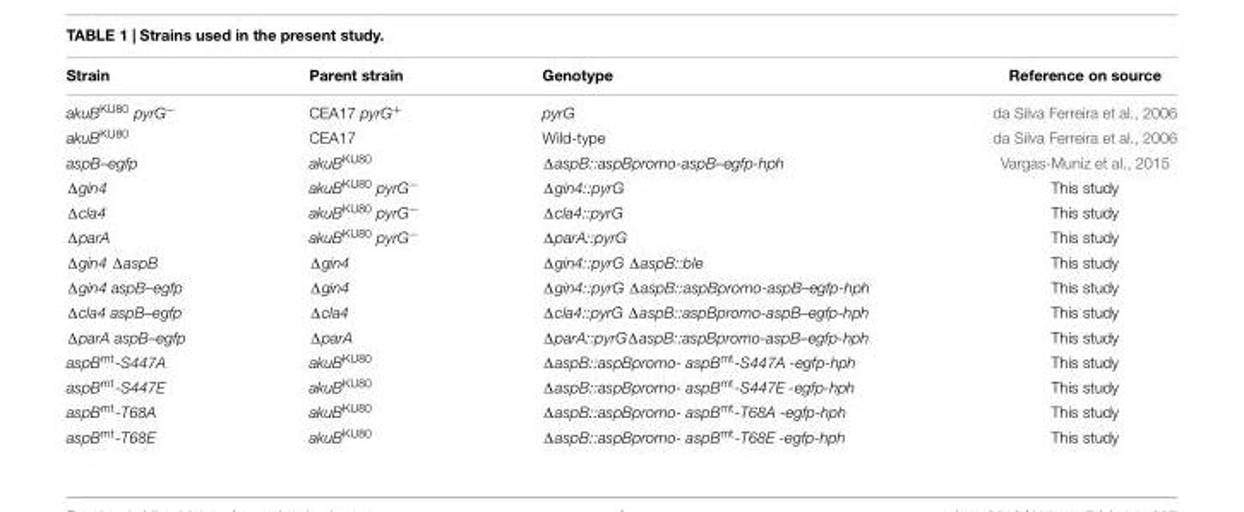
<table><thead><tr><td>Strain</td><td>Parent strain</td><td>Genotype</td><td>Reference on source</td></tr></thead><tbody><tr><td>akuB<sup>KU80</sup> pyrG<sup>−</sup></td><td>CEA17 pyrG<sup>+</sup></td><td>pyrG</td><td>da Silva Ferreira et al., 2006</td></tr><tr><td>akuB<sup>KU80</sup></td><td>CEA17</td><td>Wild-type</td><td>da Silva Ferreira et al., 2006</td></tr><tr><td>aspB–egfp</td><td>akuB<sup>KU80</sup></td><td>ΔaspB::aspBpromo-aspB–egfp-hph</td><td>Vargas-Muniz et al., 2015</td></tr><tr><td>Δgin4</td><td>akuB<sup>KU80</sup> pyrG<sup>−</sup></td><td>Δgin4::pyrG</td><td>This study</td></tr><tr><td>Δcla4</td><td>akuB<sup>KU80</sup> pyrG<sup>−</sup></td><td>Δcla4::pyrG</td><td>This study</td></tr><tr><td>ΔparA</td><td>akuB<sup>KU80</sup> pyrG<sup>−</sup></td><td>ΔparA::pyrG</td><td>This study</td></tr><tr><td>Δgin4 ΔaspB</td><td>Δgin4</td><td>Δgin4::pyrG ΔaspB::ble</td><td>This study</td></tr><tr><td>Δgin4 aspB–egfp</td><td>Δgin4</td><td>Δgin4::pyrG ΔaspB::aspBpromo-aspB–egfp-hph</td><td>This study</td></tr><tr><td>Δcla4 aspB–egfp</td><td>Δcla4</td><td>Δcla4::pyrG ΔaspB::aspBpromo-aspB–egfp-hph</td><td>This study</td></tr><tr><td>ΔparA aspB–egfp</td><td>ΔparA</td><td>ΔparA::pyrGΔaspB::aspBpromo-aspB–egfp-hph</td><td>This study</td></tr><tr><td>aspB<sup>mt</sup>-S447A</td><td>akuB<sup>KU80</sup></td><td>ΔaspB::aspBpromo- aspB<sup>mt</sup>-S447A -egfp-hph</td><td>This study</td></tr><tr><td>aspB<sup>mt</sup>-S447E</td><td>akuB<sup>KU80</sup></td><td>ΔaspB::aspBpromo- aspB<sup>mt</sup>-S447E -egfp-hph</td><td>This study</td></tr><tr><td>aspB<sup>mt</sup>-T68A</td><td>akuB<sup>KU80</sup></td><td>ΔaspB::aspBpromo- aspB<sup>mt</sup>-T68A -egfp-hph</td><td>This study</td></tr><tr><td>aspB<sup>mt</sup>-T68E</td><td>akuB<sup>KU80</sup></td><td>ΔaspB::aspBpromo- aspB<sup>mt</sup>-T68E -egfp-hph</td><td>This study</td></tr></tbody></table>